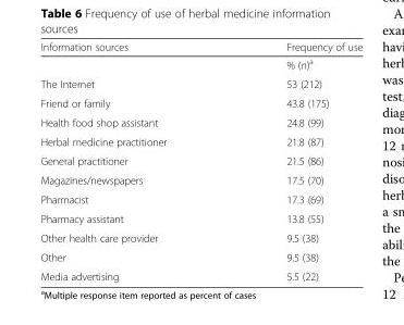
<table><thead><tr><td>Information sources</td><td>Frequency of use</td></tr></thead><tbody><tr><td></td><td>% (n)<sup>a</sup></td></tr><tr><td>The Internet</td><td>53 (212)</td></tr><tr><td>Friend or family</td><td>43.8 (175)</td></tr><tr><td>Health food shop assistant</td><td>24.8 (99)</td></tr><tr><td>Herbal medicine practitioner</td><td>21.8 (87)</td></tr><tr><td>General practitioner</td><td>21.5 (86)</td></tr><tr><td>Magazines/newspapers</td><td>17.5 (70)</td></tr><tr><td>Pharmacist</td><td>17.3 (69)</td></tr><tr><td>Pharmacy assistant</td><td>13.8 (55)</td></tr><tr><td>Other health care provider</td><td>9.5 (38)</td></tr><tr><td>Other</td><td>9.5 (38)</td></tr><tr><td>Media advertising</td><td>5.5 (22)</td></tr></tbody></table>